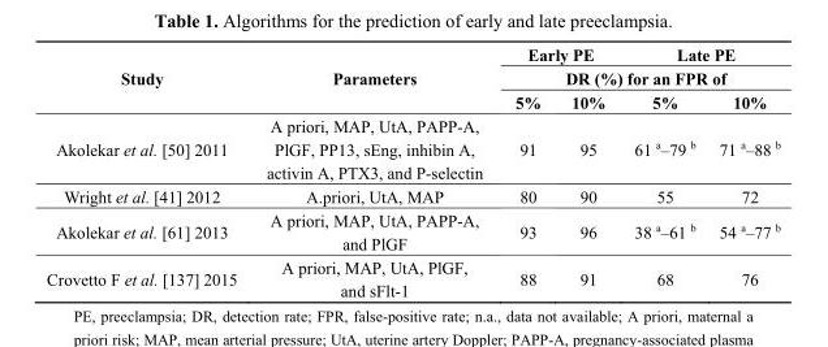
<table><thead><tr><td rowspan="3">Study</td><td rowspan="3">Parameters</td><td colspan="2">Early PE</td><td colspan="2">Late PE</td></tr><tr><td colspan="4">DR (%) for an FPR of</td></tr><tr><td>5%</td><td>10%</td><td>5%</td><td>10%</td></tr></thead><tbody><tr><td>Akolekar et al. [50] 2011</td><td>A priori, MAP, UtA, PAPP-A, PlGF, PP13, sEng, inhibin A, activin A, PTX3, and P-selectin</td><td>91</td><td>95</td><td>61 <sup>a</sup>–79 <sup>b</sup></td><td>71 <sup>a</sup>–88 <sup>b</sup></td></tr><tr><td>Wright et al. [41] 2012</td><td>A.priori, UtA, MAP</td><td>80</td><td>90</td><td>55</td><td>72</td></tr><tr><td>Akolekar et al. [61] 2013</td><td>A priori, MAP, UtA, PAPP-A, and PlGF</td><td>93</td><td>96</td><td>38 <sup>a</sup>–61 <sup>b</sup></td><td>54 <sup>a</sup>–77 <sup>b</sup></td></tr><tr><td>Crovetto F et al. [137] 2015</td><td>A priori, MAP, UtA, PlGF, and sFlt-1</td><td>88</td><td>91</td><td>68</td><td>76</td></tr></tbody></table>